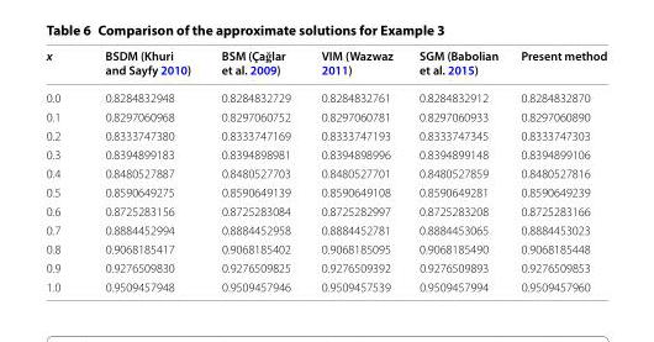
<table><thead><tr><td>x</td><td>BSDM (Khuri and Sayfy 2010)</td><td>BSM (Çağlar et al. 2009)</td><td>VIM (Wazwaz 2011)</td><td>SGM (Babolian et al. 2015)</td><td>Present method</td></tr></thead><tbody><tr><td>0.0</td><td>0.8284832948</td><td>0.8284832729</td><td>0.8284832761</td><td>0.8284832912</td><td>0.8284832870</td></tr><tr><td>0.1</td><td>0.8297060968</td><td>0.8297060752</td><td>0.8297060781</td><td>0.8297060933</td><td>0.8297060890</td></tr><tr><td>0.2</td><td>0.8333747380</td><td>0.8333747169</td><td>0.8333747193</td><td>0.8333747345</td><td>0.8333747303</td></tr><tr><td>0.3</td><td>0.8394899183</td><td>0.8394898981</td><td>0.8394898996</td><td>0.8394899148</td><td>0.8394899106</td></tr><tr><td>0.4</td><td>0.8480527887</td><td>0.8480527703</td><td>0.8480527701</td><td>0.8480527859</td><td>0.8480527816</td></tr><tr><td>0.5</td><td>0.8590649275</td><td>0.8590649139</td><td>0.8590649108</td><td>0.8590649281</td><td>0.8590649239</td></tr><tr><td>0.6</td><td>0.8725283156</td><td>0.8725283084</td><td>0.8725282997</td><td>0.8725283208</td><td>0.8725283166</td></tr><tr><td>0.7</td><td>0.8884452994</td><td>0.8884452958</td><td>0.8884452781</td><td>0.8884453065</td><td>0.8884453023</td></tr><tr><td>0.8</td><td>0.9068185417</td><td>0.9068185402</td><td>0.9068185095</td><td>0.9068185490</td><td>0.9068185448</td></tr><tr><td>0.9</td><td>0.9276509830</td><td>0.9276509825</td><td>0.9276509392</td><td>0.9276509893</td><td>0.9276509853</td></tr><tr><td>1.0</td><td>0.9509457948</td><td>0.9509457946</td><td>0.9509457539</td><td>0.9509457994</td><td>0.9509457960</td></tr></tbody></table>